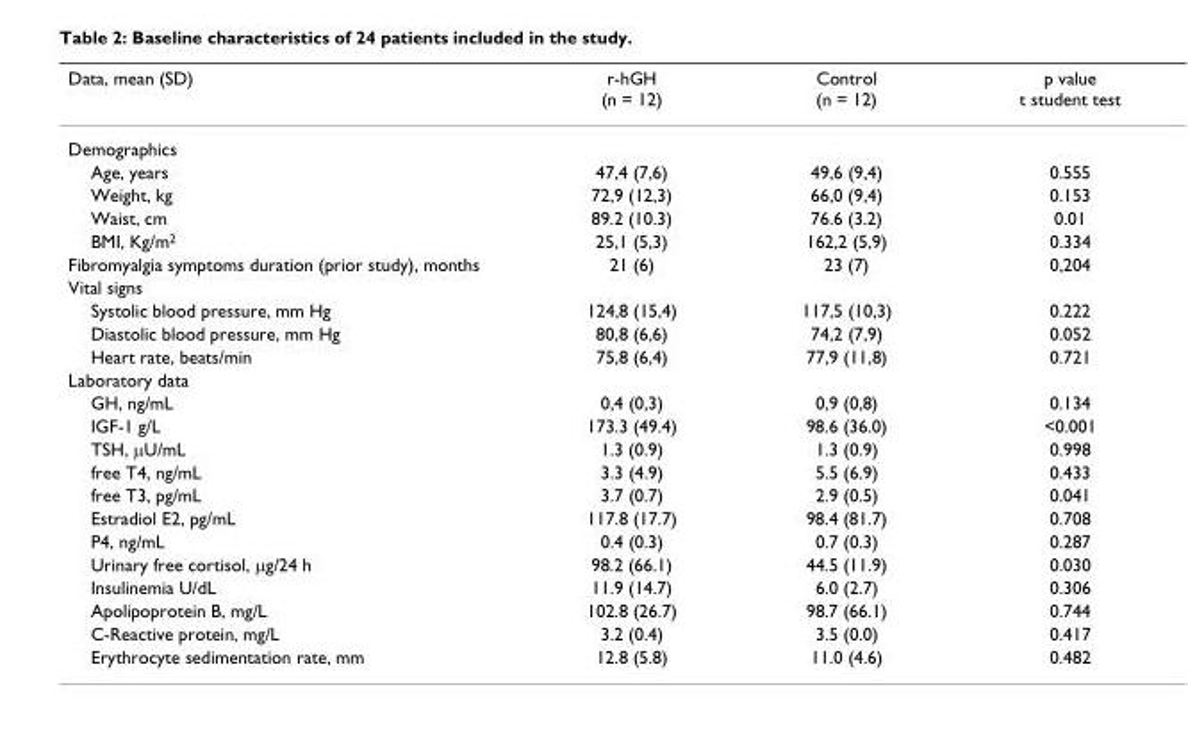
<table><thead><tr><td>Data, mean (SD)</td><td>r-hGH (n = 12)</td><td>Control (n = 12)</td><td>p value t student test</td></tr></thead><tbody><tr><td colspan="4">Demographics</td></tr><tr><td>Age, years</td><td>47,4 (7,6)</td><td>49,6 (9,4)</td><td>0.555</td></tr><tr><td>Weight, kg</td><td>72,9 (12,3)</td><td>66,0 (9,4)</td><td>0.153</td></tr><tr><td>Waist, cm</td><td>89.2 (10.3)</td><td>76.6 (3.2)</td><td>0.01</td></tr><tr><td>BMI, Kg/m<sup>2</sup></td><td>25,1 (5,3)</td><td>162,2 (5,9)</td><td>0.334</td></tr><tr><td>Fibromyalgia symptoms duration (prior study), months</td><td>21 (6)</td><td>23 (7)</td><td>0,204</td></tr><tr><td colspan="4">Vital signs</td></tr><tr><td>Systolic blood pressure, mm Hg</td><td>124,8 (15,4)</td><td>117,5 (10,3)</td><td>0.222</td></tr><tr><td>Diastolic blood pressure, mm Hg</td><td>80,8 (6,6)</td><td>74,2 (7,9)</td><td>0.052</td></tr><tr><td>Heart rate, beats/min</td><td>75,8 (6,4)</td><td>77,9 (11,8)</td><td>0.721</td></tr><tr><td colspan="4">Laboratory data</td></tr><tr><td>GH, ng/mL</td><td>0,4 (0,3)</td><td>0,9 (0,8)</td><td>0.134</td></tr><tr><td>IGF-1 g/L</td><td>173.3 (49.4)</td><td>98.6 (36.0)</td><td>&lt;0.001</td></tr><tr><td>TSH, µU/mL</td><td>1.3 (0.9)</td><td>1.3 (0.9)</td><td>0.998</td></tr><tr><td>free T4, ng/mL</td><td>3.3 (4.9)</td><td>5.5 (6.9)</td><td>0.433</td></tr><tr><td>free T3, pg/mL</td><td>3.7 (0.7)</td><td>2.9 (0.5)</td><td>0.041</td></tr><tr><td>Estradiol E2, pg/mL</td><td>117.8 (17.7)</td><td>98.4 (81.7)</td><td>0.708</td></tr><tr><td>P4, ng/mL</td><td>0.4 (0.3)</td><td>0.7 (0.3)</td><td>0.287</td></tr><tr><td>Urinary free cortisol, µg/24 h</td><td>98.2 (66.1)</td><td>44.5 (11.9)</td><td>0.030</td></tr><tr><td>Insulinemia U/dL</td><td>11.9 (14.7)</td><td>6.0 (2.7)</td><td>0.306</td></tr><tr><td>Apolipoprotein B, mg/L</td><td>102.8 (26.7)</td><td>98.7 (66.1)</td><td>0.744</td></tr><tr><td>C-Reactive protein, mg/L</td><td>3.2 (0.4)</td><td>3.5 (0.0)</td><td>0.417</td></tr><tr><td>Erythrocyte sedimentation rate, mm</td><td>12.8 (5.8)</td><td>11.0 (4.6)</td><td>0.482</td></tr></tbody></table>